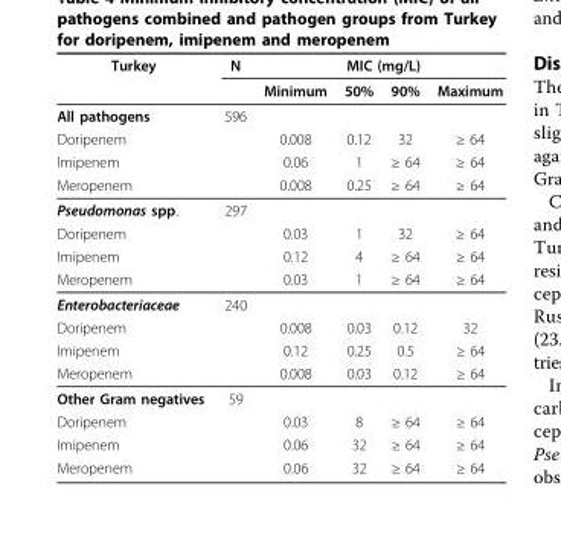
<table><thead><tr><td rowspan="2">Turkey</td><td rowspan="2">N</td><td colspan="4">MIC (mg/L)</td></tr><tr><td>Minimum</td><td>50%</td><td>90%</td><td>Maximum</td></tr></thead><tbody><tr><td>All pathogens</td><td>596</td><td></td><td></td><td></td><td></td></tr><tr><td>Doripenem</td><td></td><td>0.008</td><td>0.12</td><td>32</td><td>≥ 64</td></tr><tr><td>Imipenem</td><td></td><td>0.06</td><td>1</td><td>≥ 64</td><td>≥ 64</td></tr><tr><td>Meropenem</td><td></td><td>0.008</td><td>0.25</td><td>≥ 64</td><td>≥ 64</td></tr><tr><td>Pseudomonas spp.</td><td>297</td><td></td><td></td><td></td><td></td></tr><tr><td>Doripenem</td><td></td><td>0.03</td><td>1</td><td>32</td><td>≥ 64</td></tr><tr><td>Imipenem</td><td></td><td>0.12</td><td>4</td><td>≥ 64</td><td>≥ 64</td></tr><tr><td>Meropenem</td><td></td><td>0.03</td><td>1</td><td>≥ 64</td><td>≥ 64</td></tr><tr><td>Enterobacteriaceae</td><td>240</td><td></td><td></td><td></td><td></td></tr><tr><td>Doripenem</td><td></td><td>0.008</td><td>0.03</td><td>0.12</td><td>32</td></tr><tr><td>Imipenem</td><td></td><td>0.12</td><td>0.25</td><td>0.5</td><td>≥ 64</td></tr><tr><td>Meropenem</td><td></td><td>0.008</td><td>0.03</td><td>0.12</td><td>≥ 64</td></tr><tr><td>Other Gram negatives</td><td>59</td><td></td><td></td><td></td><td></td></tr><tr><td>Doripenem</td><td></td><td>0.03</td><td>8</td><td>≥ 64</td><td>≥ 64</td></tr><tr><td>Imipenem</td><td></td><td>0.06</td><td>32</td><td>≥ 64</td><td>≥ 64</td></tr><tr><td>Meropenem</td><td></td><td>0.06</td><td>32</td><td>≥ 64</td><td>≥ 64</td></tr></tbody></table>